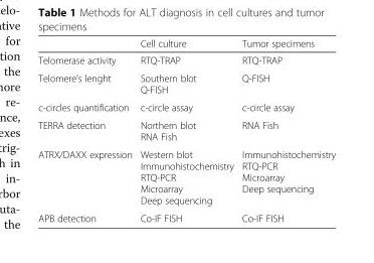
<table><thead><tr><td></td><td>Cell culture</td><td>Tumor specimens</td></tr></thead><tbody><tr><td>Telomerase activity</td><td>RTQ-TRAP</td><td>RTQ-TRAP</td></tr><tr><td>Telomere’s lenght</td><td>Southern blot Q-FISH</td><td>Q-FISH</td></tr><tr><td>c-circles quantification</td><td>c-circle assay</td><td>c-circle assay</td></tr><tr><td>TERRA detection</td><td>Northern blot RNA Fish</td><td>RNA Fish</td></tr><tr><td>ATRX/DAXX expression</td><td>Western blot Immunohistochemistry RTQ-PCR Microarray Deep sequencing</td><td>Immunohistochemistry RTQ-PCR Microarray Deep sequencing</td></tr><tr><td>APB detection</td><td>Co-IF FISH</td><td>Co-IF FISH</td></tr></tbody></table>